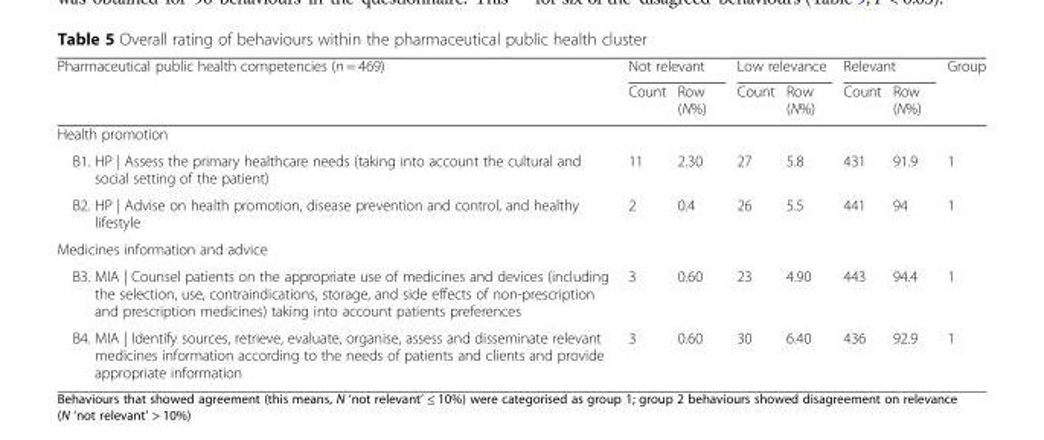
<table><thead><tr><td rowspan="2">Pharmaceutical public health competencies (n = 469)</td><td colspan="2">Not relevant</td><td colspan="2">Low relevance</td><td colspan="2">Relevant</td><td rowspan="2">Group</td></tr><tr><td>Count</td><td>Row (N%)</td><td>Count</td><td>Row (N%)</td><td>Count</td><td>Row (N%)</td></tr></thead><tbody><tr><td colspan="8">Health promotion</td></tr><tr><td>B1. HP | Assess the primary healthcare needs (taking into account the cultural and social setting of the patient)</td><td>11</td><td>2.30</td><td>27</td><td>5.8</td><td>431</td><td>91.9</td><td>1</td></tr><tr><td>B2. HP | Advise on health promotion, disease prevention and control, and healthy lifestyle</td><td>2</td><td>0.4</td><td>26</td><td>5.5</td><td>441</td><td>94</td><td>1</td></tr><tr><td colspan="8">Medicines information and advice</td></tr><tr><td>B3. MIA | Counsel patients on the appropriate use of medicines and devices (including the selection, use, contraindications, storage, and side effects of non-prescription and prescription medicines) taking into account patients preferences</td><td>3</td><td>0.60</td><td>23</td><td>4.90</td><td>443</td><td>94.4</td><td>1</td></tr><tr><td>B4. MIA | Identify sources, retrieve, evaluate, organise, assess and disseminate relevant medicines information according to the needs of patients and clients and provide appropriate information</td><td>3</td><td>0.60</td><td>30</td><td>6.40</td><td>436</td><td>92.9</td><td>1</td></tr></tbody></table>